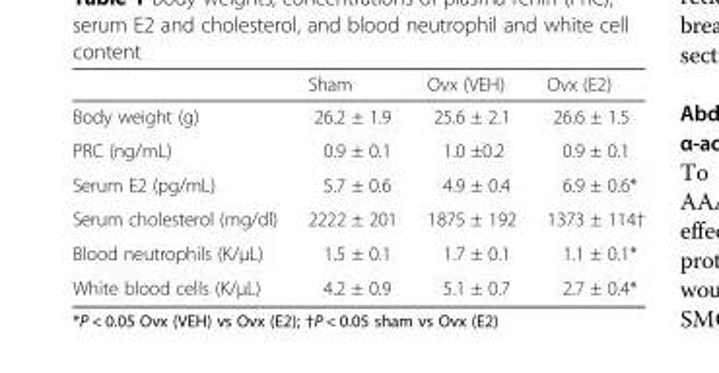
<table><thead><tr><td></td><td>Sham</td><td>Ovx (VEH)</td><td>Ovx (E2)</td></tr></thead><tbody><tr><td>Body weight (g)</td><td>26.2 ± 1.9</td><td>25.6 ± 2.1</td><td>26.6 ± 1.5</td></tr><tr><td>PRC (ng/mL)</td><td>0.9 ± 0.1</td><td>1.0 ±0.2</td><td>0.9 ± 0.1</td></tr><tr><td>Serum E2 (pg/mL)</td><td>5.7 ± 0.6</td><td>4.9 ± 0.4</td><td>6.9 ± 0.6*</td></tr><tr><td>Serum cholesterol (mg/dl)</td><td>2222 ± 201</td><td>1875 ± 192</td><td>1373 ± 114†</td></tr><tr><td>Blood neutrophils (K/μL)</td><td>1.5 ± 0.1</td><td>1.7 ± 0.1</td><td>1.1 ± 0.1*</td></tr><tr><td>White blood cells (K/μL)</td><td>4.2 ± 0.9</td><td>5.1 ± 0.7</td><td>2.7 ± 0.4*</td></tr></tbody></table>